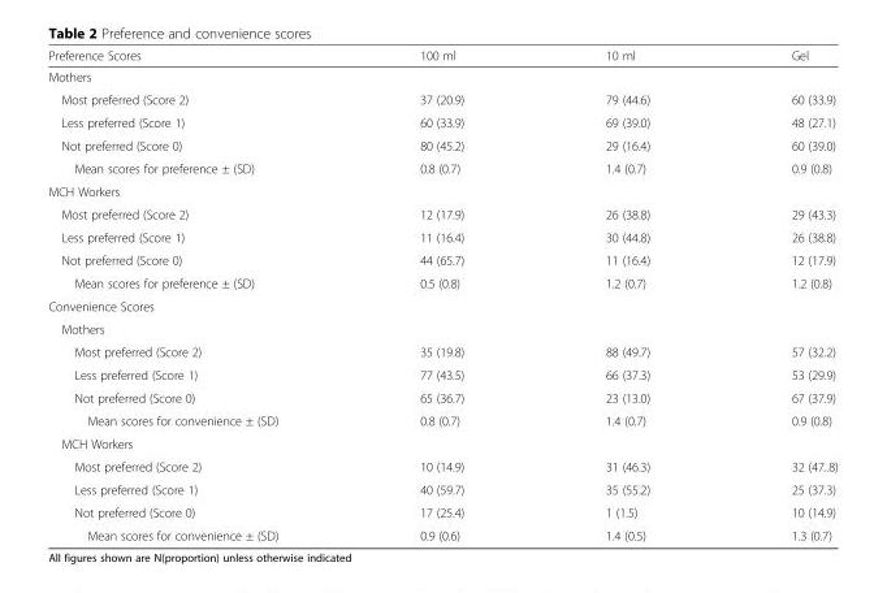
<table><thead><tr><td>Preference Scores</td><td>100 ml</td><td>10 ml</td><td>Gel</td></tr></thead><tbody><tr><td colspan="4">Mothers</td></tr><tr><td>Most preferred (Score 2)</td><td>37 (20.9)</td><td>79 (44.6)</td><td>60 (33.9)</td></tr><tr><td>Less preferred (Score 1)</td><td>60 (33.9)</td><td>69 (39.0)</td><td>48 (27.1)</td></tr><tr><td>Not preferred (Score 0)</td><td>80 (45.2)</td><td>29 (16.4)</td><td>60 (39.0)</td></tr><tr><td>Mean scores for preference ± (SD)</td><td>0.8 (0.7)</td><td>1.4 (0.7)</td><td>0.9 (0.8)</td></tr><tr><td colspan="4">MCH Workers</td></tr><tr><td>Most preferred (Score 2)</td><td>12 (17.9)</td><td>26 (38.8)</td><td>29 (43.3)</td></tr><tr><td>Less preferred (Score 1)</td><td>11 (16.4)</td><td>30 (44.8)</td><td>26 (38.8)</td></tr><tr><td>Not preferred (Score 0)</td><td>44 (65.7)</td><td>11 (16.4)</td><td>12 (17.9)</td></tr><tr><td>Mean scores for preference ± (SD)</td><td>0.5 (0.8)</td><td>1.2 (0.7)</td><td>1.2 (0.8)</td></tr><tr><td colspan="4">Convenience Scores</td></tr><tr><td colspan="4">Mothers</td></tr><tr><td>Most preferred (Score 2)</td><td>35 (19.8)</td><td>88 (49.7)</td><td>57 (32.2)</td></tr><tr><td>Less preferred (Score 1)</td><td>77 (43.5)</td><td>66 (37.3)</td><td>53 (29.9)</td></tr><tr><td>Not preferred (Score 0)</td><td>65 (36.7)</td><td>23 (13.0)</td><td>67 (37.9)</td></tr><tr><td>Mean scores for convenience ± (SD)</td><td>0.8 (0.7)</td><td>1.4 (0.7)</td><td>0.9 (0.8)</td></tr><tr><td colspan="4">MCH Workers</td></tr><tr><td>Most preferred (Score 2)</td><td>10 (14.9)</td><td>31 (46.3)</td><td>32 (47..8)</td></tr><tr><td>Less preferred (Score 1)</td><td>40 (59.7)</td><td>35 (55.2)</td><td>25 (37.3)</td></tr><tr><td>Not preferred (Score 0)</td><td>17 (25.4)</td><td>1 (1.5)</td><td>10 (14.9)</td></tr><tr><td>Mean scores for convenience ± (SD)</td><td>0.9 (0.6)</td><td>1.4 (0.5)</td><td>1.3 (0.7)</td></tr></tbody></table>